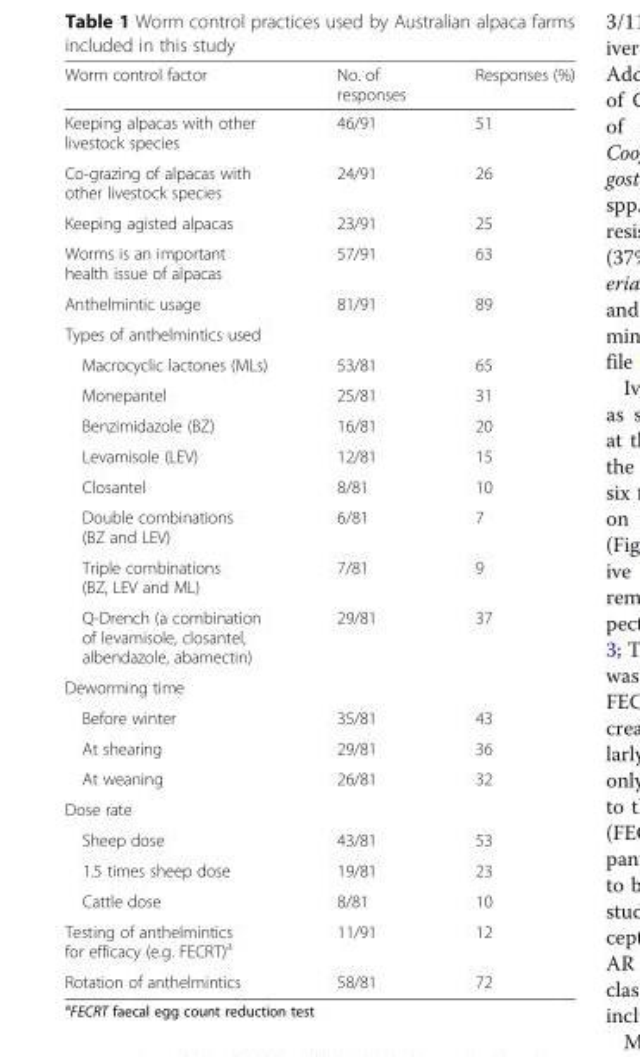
<table><thead><tr><td>Worm control factor</td><td>No. of responses</td><td>Responses (%)</td></tr></thead><tbody><tr><td>Keeping alpacas with other livestock species</td><td>46/91</td><td>51</td></tr><tr><td>Co-grazing of alpacas with other livestock species</td><td>24/91</td><td>26</td></tr><tr><td>Keeping agisted alpacas</td><td>23/91</td><td>25</td></tr><tr><td>Worms is an important health issue of alpacas</td><td>57/91</td><td>63</td></tr><tr><td>Anthelmintic usage</td><td>81/91</td><td>89</td></tr><tr><td colspan="3">Types of anthelmintics used</td></tr><tr><td>Macrocyclic lactones (MLs)</td><td>53/81</td><td>65</td></tr><tr><td>Monepantel</td><td>25/81</td><td>31</td></tr><tr><td>Benzimidazole (BZ)</td><td>16/81</td><td>20</td></tr><tr><td>Levamisole (LEV)</td><td>12/81</td><td>15</td></tr><tr><td>Closantel</td><td>8/81</td><td>10</td></tr><tr><td>Double combinations (BZ and LEV)</td><td>6/81</td><td>7</td></tr><tr><td>Triple combinations (BZ, LEV and ML)</td><td>7/81</td><td>9</td></tr><tr><td>Q-Drench (a combination of levamisole, closantel, albendazole, abamectin)</td><td>29/81</td><td>37</td></tr><tr><td colspan="3">Deworming time</td></tr><tr><td>Before winter</td><td>35/81</td><td>43</td></tr><tr><td>At shearing</td><td>29/81</td><td>36</td></tr><tr><td>At weaning</td><td>26/81</td><td>32</td></tr><tr><td colspan="3">Dose rate</td></tr><tr><td>Sheep dose</td><td>43/81</td><td>53</td></tr><tr><td>1.5 times sheep dose</td><td>19/81</td><td>23</td></tr><tr><td>Cattle dose</td><td>8/81</td><td>10</td></tr><tr><td>Testing of anthelmintics for efficacy (e.g. FECRT)<sup>a</sup></td><td>11/91</td><td>12</td></tr><tr><td>Rotation of anthelmintics</td><td>58/81</td><td>72</td></tr></tbody></table>